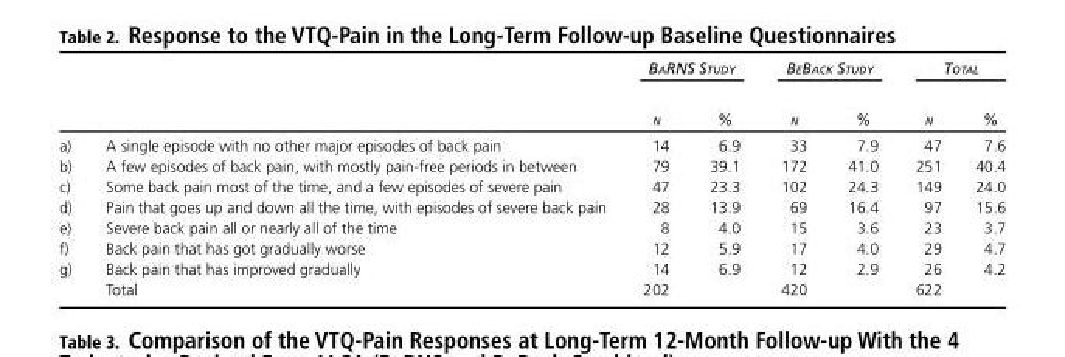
<table><thead><tr><td rowspan="2"></td><td rowspan="2"></td><td colspan="2">BARNS STUDY</td><td colspan="2">BEBACK STUDY</td><td colspan="2">TOTAL</td></tr><tr><td>N</td><td>%</td><td>N</td><td>%</td><td>N</td><td>%</td></tr></thead><tbody><tr><td>a)</td><td>A single episode with no other major episodes of back pain</td><td>14</td><td>6.9</td><td>33</td><td>7.9</td><td>47</td><td>7.6</td></tr><tr><td>b)</td><td>A few episodes of back pain, with mostly pain-free periods in between</td><td>79</td><td>39.1</td><td>172</td><td>41.0</td><td>251</td><td>40.4</td></tr><tr><td>c)</td><td>Some back pain most of the time, and a few episodes of severe pain</td><td>47</td><td>23.3</td><td>102</td><td>24.3</td><td>149</td><td>24.0</td></tr><tr><td>d)</td><td>Pain that goes up and down all the time, with episodes of severe back pain</td><td>28</td><td>13.9</td><td>69</td><td>16.4</td><td>97</td><td>15.6</td></tr><tr><td>e)</td><td>Severe back pain all or nearly all of the time</td><td>8</td><td>4.0</td><td>15</td><td>3.6</td><td>23</td><td>3.7</td></tr><tr><td>f)</td><td>Back pain that has got gradually worse</td><td>12</td><td>5.9</td><td>17</td><td>4.0</td><td>29</td><td>4.7</td></tr><tr><td rowspan="2">g)</td><td>Back pain that has improved gradually</td><td>14</td><td>6.9</td><td>12</td><td>2.9</td><td>26</td><td>4.2</td></tr><tr><td>Total</td><td>202</td><td></td><td>420</td><td></td><td>622</td><td></td></tr></tbody></table>